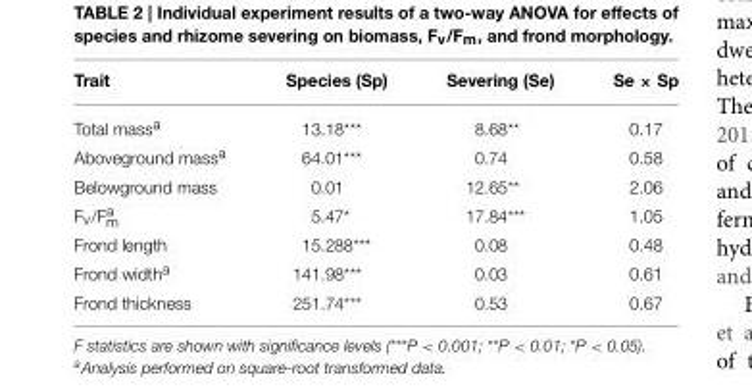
<table><thead><tr><td>Trait</td><td>Species (Sp)</td><td>Severing (Se)</td><td>Se × Sp</td></tr></thead><tbody><tr><td>Total mass<sup>a</sup></td><td>13.18***</td><td>8.68**</td><td>0.17</td></tr><tr><td>Aboveground mass<sup>a</sup></td><td>64.01***</td><td>0.74</td><td>0.58</td></tr><tr><td>Belowground mass</td><td>0.01</td><td>12.65**</td><td>2.06</td></tr><tr><td>Fv/Fam</td><td>5.47*</td><td>17.84***</td><td>1.05</td></tr><tr><td>Frond length</td><td>15.288***</td><td>0.08</td><td>0.48</td></tr><tr><td>Frond width<sup>a</sup></td><td>141.98***</td><td>0.03</td><td>0.61</td></tr><tr><td>Frond thickness</td><td>251.74***</td><td>0.53</td><td>0.67</td></tr></tbody></table>